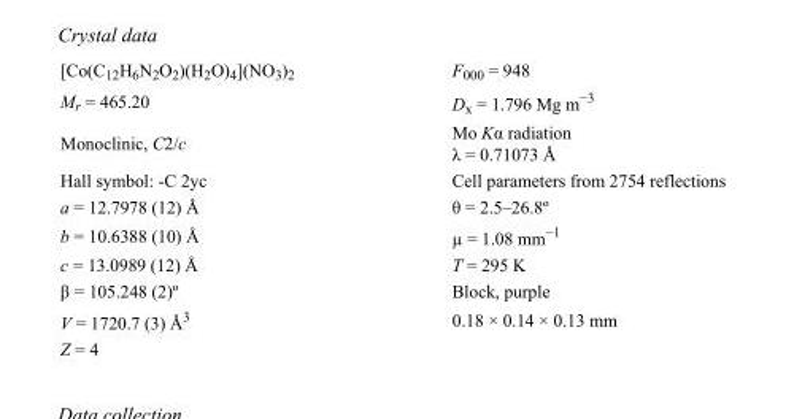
<table><tbody><tr><td>[Co(C<sub>12</sub>H<sub>6</sub>N<sub>2</sub>O<sub>2</sub>)(H<sub>2</sub>O)<sub>4</sub>](NO<sub>3</sub>)<sub>2</sub></td><td>F000 = 948</td></tr><tr><td>M<sub>r</sub> = 465.20</td><td>D<sub>x</sub> = 1.796 Mg m<sup>−3</sup></td></tr><tr><td>Monoclinic, C2/c</td><td>Mo Kα radiation λ = 0.71073 Å</td></tr><tr><td>Hall symbol: -C 2yc</td><td>Cell parameters from 2754 reflections</td></tr><tr><td>a = 12.7978 (12) Å</td><td>θ = 2.5–26.8º</td></tr><tr><td>b = 10.6388 (10) Å</td><td>µ = 1.08 mm<sup>−1</sup></td></tr><tr><td>c = 13.0989 (12) Å</td><td>T = 295 K</td></tr><tr><td>β = 105.248 (2)º</td><td>Block, purple</td></tr><tr><td>V = 1720.7 (3) Å<sup>3</sup></td><td>0.18 × 0.14 × 0.13 mm</td></tr><tr><td>Z = 4</td><td></td></tr></tbody></table>